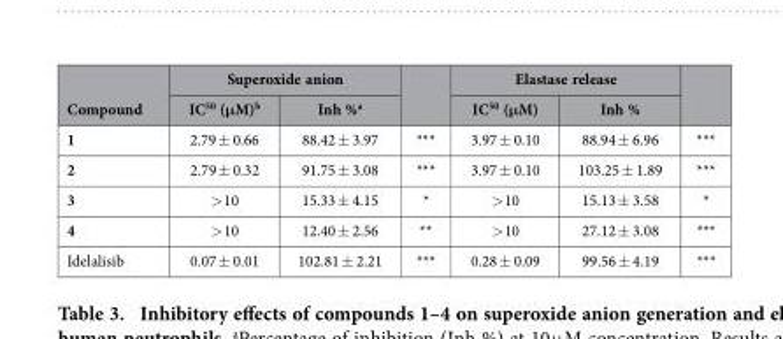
<table><thead><tr><td rowspan="2">Compound</td><td colspan="2">Superoxide anion</td><td rowspan="2"></td><td colspan="2">Elastase release</td><td rowspan="2"></td></tr><tr><td>IC<sup>50</sup> (μM)<sup>b</sup></td><td>Inh %<sup>a</sup></td><td>IC<sup>50</sup> (μM)</td><td>Inh %</td></tr></thead><tbody><tr><td>1</td><td>2.79 ± 0.66</td><td>88.42 ± 3.97</td><td>***</td><td>3.97 ± 0.10</td><td>88.94 ± 6.96</td><td>***</td></tr><tr><td>2</td><td>2.79 ± 0.32</td><td>91.75 ± 3.08</td><td>***</td><td>3.97 ± 0.10</td><td>103.25 ± 1.89</td><td>***</td></tr><tr><td>3</td><td>&gt; 10</td><td>15.33 ± 4.15</td><td>*</td><td>&gt; 10</td><td>15.13 ± 3.58</td><td>*</td></tr><tr><td>4</td><td>&gt; 10</td><td>12.40 ± 2.56</td><td>**</td><td>&gt; 10</td><td>27.12 ± 3.08</td><td>***</td></tr><tr><td>Idelalisib</td><td>0.07 ± 0.01</td><td>102.81 ± 2.21</td><td>***</td><td>0.28 ± 0.09</td><td>99.56 ± 4.19</td><td>***</td></tr></tbody></table>